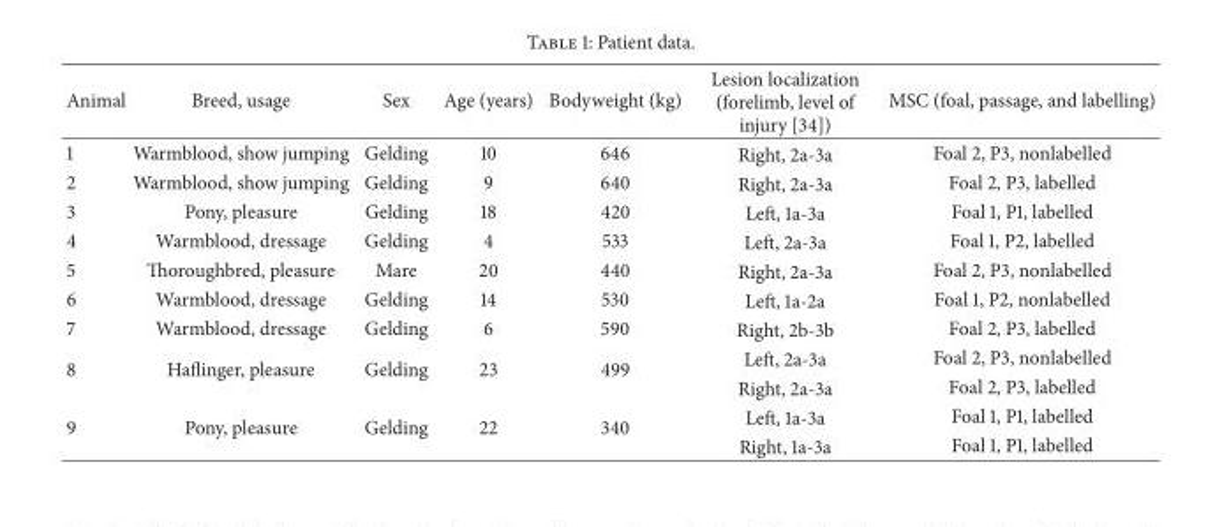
<table><thead><tr><td>Animal</td><td>Breed, usage</td><td>Sex</td><td>Age (years)</td><td>Bodyweight (kg)</td><td>Lesion localization (forelimb, level of injury [34])</td><td>MSC (foal, passage, and labelling)</td></tr></thead><tbody><tr><td>1</td><td>Warmblood, show jumping</td><td>Gelding</td><td>10</td><td>646</td><td>Right, 2a-3a</td><td>Foal 2, P3, nonlabelled</td></tr><tr><td>2</td><td>Warmblood, show jumping</td><td>Gelding</td><td>9</td><td>640</td><td>Right, 2a-3a</td><td>Foal 2, P3, labelled</td></tr><tr><td>3</td><td>Pony, pleasure</td><td>Gelding</td><td>18</td><td>420</td><td>Left, 1a-3a</td><td>Foal 1, P1, labelled</td></tr><tr><td>4</td><td>Warmblood, dressage</td><td>Gelding</td><td>4</td><td>533</td><td>Left, 2a-3a</td><td>Foal 1, P2, labelled</td></tr><tr><td>5</td><td>Thoroughbred, pleasure</td><td>Mare</td><td>20</td><td>440</td><td>Right, 2a-3a</td><td>Foal 2, P3, nonlabelled</td></tr><tr><td>6</td><td>Warmblood, dressage</td><td>Gelding</td><td>14</td><td>530</td><td>Left, 1a-2a</td><td>Foal 1, P2, nonlabelled</td></tr><tr><td>7</td><td>Warmblood, dressage</td><td>Gelding</td><td>6</td><td>590</td><td>Right, 2b-3b</td><td>Foal 2, P3, labelled</td></tr><tr><td rowspan="2">8</td><td rowspan="2">Haflinger, pleasure</td><td rowspan="2">Gelding</td><td rowspan="2">23</td><td rowspan="2">499</td><td>Left, 2a-3a</td><td>Foal 2, P3, nonlabelled</td></tr><tr><td>Right, 2a-3a</td><td>Foal 2, P3, labelled</td></tr><tr><td rowspan="2">9</td><td rowspan="2">Pony, pleasure</td><td rowspan="2">Gelding</td><td rowspan="2">22</td><td rowspan="2">340</td><td>Left, 1a-3a</td><td>Foal 1, P1, labelled</td></tr><tr><td>Right, 1a-3a</td><td>Foal 1, P1, labelled</td></tr></tbody></table>